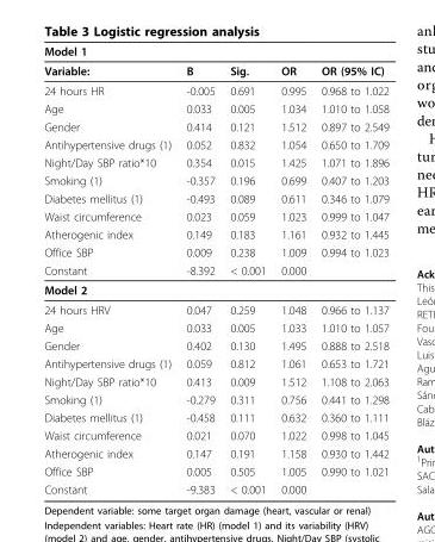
<table><thead><tr><td colspan="5">Model 1</td></tr><tr><td>Variable:</td><td>B</td><td>Sig.</td><td>OR</td><td>OR (95% IC)</td></tr></thead><tbody><tr><td>24 hours HR</td><td>-0.005</td><td>0.691</td><td>0.995</td><td>0.968 to 1.022</td></tr><tr><td>Age</td><td>0.033</td><td>0.005</td><td>1.034</td><td>1.010 to 1.058</td></tr><tr><td>Gender</td><td>0.414</td><td>0.121</td><td>1.512</td><td>0.897 to 2.549</td></tr><tr><td>Antihypertensive drugs (1)</td><td>0.052</td><td>0.832</td><td>1.054</td><td>0.650 to 1.709</td></tr><tr><td>Night/Day SBP ratio*10</td><td>0.354</td><td>0.015</td><td>1.425</td><td>1.071 to 1.896</td></tr><tr><td>Smoking (1)</td><td>-0.357</td><td>0.196</td><td>0.699</td><td>0.407 to 1.203</td></tr><tr><td>Diabetes mellitus (1)</td><td>-0.493</td><td>0.089</td><td>0.611</td><td>0.346 to 1.079</td></tr><tr><td>Waist circumference</td><td>0.023</td><td>0.059</td><td>1.023</td><td>0.999 to 1.047</td></tr><tr><td>Atherogenic index</td><td>0.149</td><td>0.183</td><td>1.161</td><td>0.932 to 1.445</td></tr><tr><td>Office SBP</td><td>0.009</td><td>0.238</td><td>1.009</td><td>0.994 to 1.023</td></tr><tr><td>Constant</td><td>-8.392</td><td>&lt; 0.001</td><td>0.000</td><td></td></tr><tr><td colspan="5">Model 2</td></tr><tr><td>24 hours HRV</td><td>0.047</td><td>0.259</td><td>1.048</td><td>0.966 to 1.137</td></tr><tr><td>Age</td><td>0.033</td><td>0.005</td><td>1.033</td><td>1.010 to 1.057</td></tr><tr><td>Gender</td><td>0.402</td><td>0.130</td><td>1.495</td><td>0.888 to 2.518</td></tr><tr><td>Antihypertensive drugs (1)</td><td>0.059</td><td>0.812</td><td>1.061</td><td>0.653 to 1.721</td></tr><tr><td>Night/Day SBP ratio*10</td><td>0.413</td><td>0.009</td><td>1.512</td><td>1.108 to 2.063</td></tr><tr><td>Smoking (1)</td><td>-0.279</td><td>0.311</td><td>0.756</td><td>0.441 to 1.298</td></tr><tr><td>Diabetes mellitus (1)</td><td>-0.458</td><td>0.111</td><td>0.632</td><td>0.360 to 1.111</td></tr><tr><td>Waist circumference</td><td>0.021</td><td>0.070</td><td>1.022</td><td>0.998 to 1.045</td></tr><tr><td>Atherogenic index</td><td>0.147</td><td>0.191</td><td>1.158</td><td>0.930 to 1.442</td></tr><tr><td>Office SBP</td><td>0.005</td><td>0.505</td><td>1.005</td><td>0.990 to 1.021</td></tr><tr><td>Constant</td><td>-9.383</td><td>&lt; 0.001</td><td>0.000</td><td></td></tr></tbody></table>